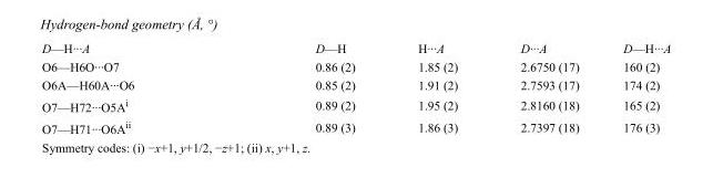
<table><tbody><tr><td>D—H···A</td><td>D—H</td><td>H···A</td><td>D···A</td><td>D—H···A</td></tr><tr><td>O6—H6O···O7</td><td>0.86 (2)</td><td>1.85 (2)</td><td>2.6750 (17)</td><td>160 (2)</td></tr><tr><td>O6A—H60A···O6</td><td>0.85 (2)</td><td>1.91 (2)</td><td>2.7593 (17)</td><td>174 (2)</td></tr><tr><td>O7—H72···O5A<sup>i</sup></td><td>0.89 (2)</td><td>1.95 (2)</td><td>2.8160 (18)</td><td>165 (2)</td></tr><tr><td>O7—H71···O6A<sup>ii</sup></td><td>0.89 (3)</td><td>1.86 (3)</td><td>2.7397 (18)</td><td>176 (3)</td></tr></tbody></table>